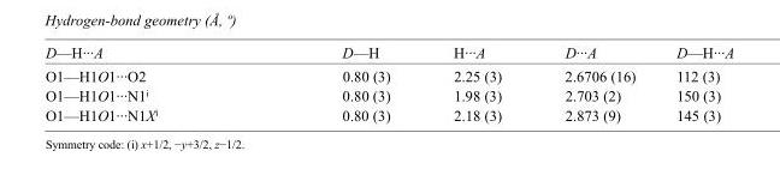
<table><tbody><tr><td>D—H···A</td><td>D—H</td><td>H···A</td><td>D···A</td><td>D—H···A</td></tr><tr><td>O1—H1O1···O2</td><td>0.80 (3)</td><td>2.25 (3)</td><td>2.6706 (16)</td><td>112 (3)</td></tr><tr><td>O1—H1O1···N1<sup>i</sup></td><td>0.80 (3)</td><td>1.98 (3)</td><td>2.703 (2)</td><td>150 (3)</td></tr><tr><td>O1—H1O1···N1X<sup>i</sup></td><td>0.80 (3)</td><td>2.18 (3)</td><td>2.873 (9)</td><td>145 (3)</td></tr></tbody></table>